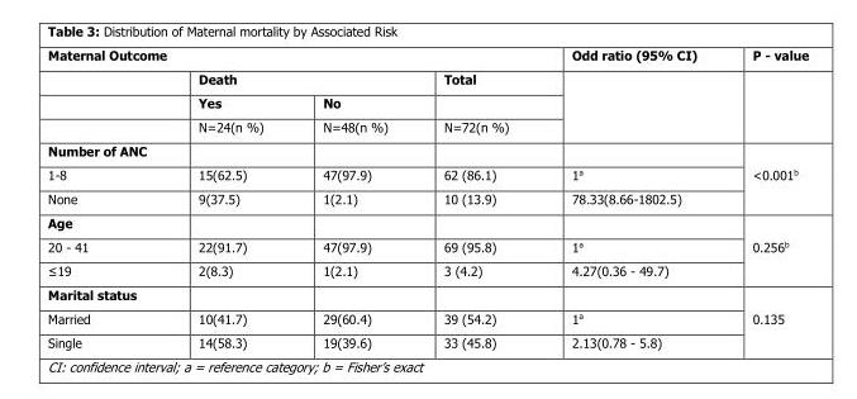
<table><thead><tr><td colspan="4">Maternal Outcome</td><td rowspan="4">Odd ratio (95% CI)</td><td rowspan="4">P - value</td></tr><tr><td rowspan="3"></td><td colspan="2">Death</td><td rowspan="3">Total N=72(n %)</td></tr><tr><td rowspan="2">Yes N=24(n %)</td><td rowspan="2">No N=48(n %)</td></tr><tr></tr></thead><tbody><tr><td colspan="5">Number of ANC</td><td rowspan="3">&lt;0.001<sup>b</sup></td></tr><tr><td>1-8</td><td>15(62.5)</td><td>47(97.9)</td><td>62 (86.1)</td><td>1<sup>a</sup></td></tr><tr><td>None</td><td>9(37.5)</td><td>1(2.1)</td><td>10 (13.9)</td><td>78.33(8.66-1802.5)</td></tr><tr><td colspan="5">Age</td><td rowspan="3">0.256<sup>b</sup></td></tr><tr><td>20 - 41</td><td>22(91.7)</td><td>47(97.9)</td><td>69 (95.8)</td><td>1<sup>a</sup></td></tr><tr><td>≤19</td><td>2(8.3)</td><td>1(2.1)</td><td>3 (4.2)</td><td>4.27(0.36 - 49.7)</td></tr><tr><td colspan="5">Marital status</td><td rowspan="3">0.135</td></tr><tr><td>Married</td><td>10(41.7)</td><td>29(60.4)</td><td>39 (54.2)</td><td>1<sup>a</sup></td></tr><tr><td>Single</td><td>14(58.3)</td><td>19(39.6)</td><td>33 (45.8)</td><td>2.13(0.78 - 5.8)</td></tr></tbody></table>